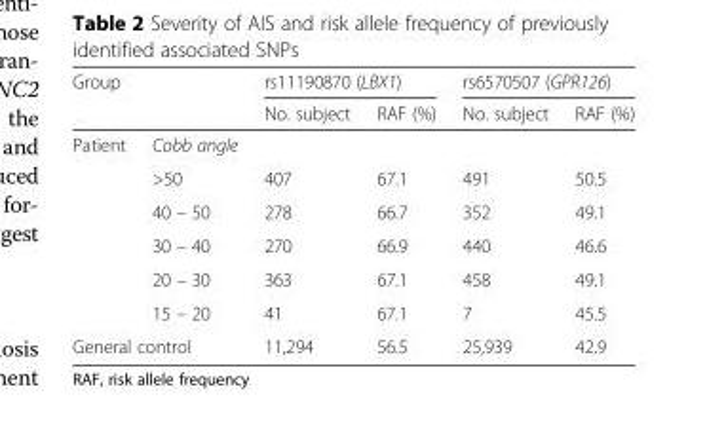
<table><thead><tr><td rowspan="2" colspan="2">Group</td><td colspan="2">rs11190870 (LBX1)</td><td colspan="2">rs6570507 (GPR126)</td></tr><tr><td rowspan="2">No. subject</td><td rowspan="2">RAF (%)</td><td rowspan="2">No. subject</td><td rowspan="2">RAF (%)</td></tr><tr><td>Patient</td><td>Cobb angle</td></tr></thead><tbody><tr><td></td><td>&gt;50</td><td>407</td><td>67.1</td><td>491</td><td>50.5</td></tr><tr><td></td><td>40 – 50</td><td>278</td><td>66.7</td><td>352</td><td>49.1</td></tr><tr><td></td><td>30 – 40</td><td>270</td><td>66.9</td><td>440</td><td>46.6</td></tr><tr><td></td><td>20 – 30</td><td>363</td><td>67.1</td><td>458</td><td>49.1</td></tr><tr><td></td><td>15 – 20</td><td>41</td><td>67.1</td><td>7</td><td>45.5</td></tr><tr><td colspan="2">General control</td><td>11,294</td><td>56.5</td><td>25,939</td><td>42.9</td></tr></tbody></table>